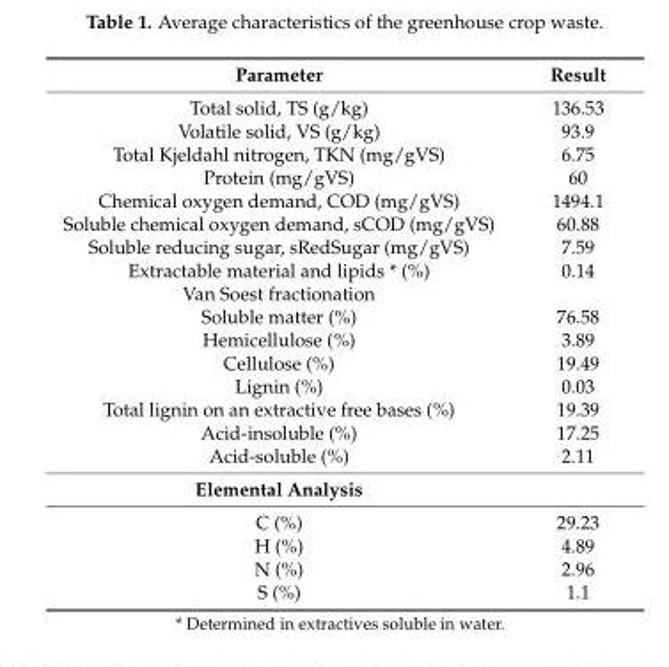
<table><thead><tr><td>Parameter</td><td>Result</td></tr></thead><tbody><tr><td>Total solid, TS (g/kg)</td><td>136.53</td></tr><tr><td>Volatile solid, VS (g/kg)</td><td>93.9</td></tr><tr><td>Total Kjeldahl nitrogen, TKN (mg/gVS)</td><td>6.75</td></tr><tr><td>Protein (mg/gVS)</td><td>60</td></tr><tr><td>Chemical oxygen demand, COD (mg/gVS)</td><td>1494.1</td></tr><tr><td>Soluble chemical oxygen demand, sCOD (mg/gVS)</td><td>60.88</td></tr><tr><td>Soluble reducing sugar, sRedSugar (mg/gVS)</td><td>7.59</td></tr><tr><td>Extractable material and lipids * (%)</td><td>0.14</td></tr><tr><td colspan="2">Van Soest fractionation</td></tr><tr><td>Soluble matter (%)</td><td>76.58</td></tr><tr><td>Hemicellulose (%)</td><td>3.89</td></tr><tr><td>Cellulose (%)</td><td>19.49</td></tr><tr><td>Lignin (%)</td><td>0.03</td></tr><tr><td>Total lignin on an extractive free bases (%)</td><td>19.39</td></tr><tr><td>Acid-insoluble (%)</td><td>17.25</td></tr><tr><td>Acid-soluble (%)</td><td>2.11</td></tr><tr><td colspan="2">Elemental Analysis</td></tr><tr><td>C (%)</td><td>29.23</td></tr><tr><td>H (%)</td><td>4.89</td></tr><tr><td>N (%)</td><td>2.96</td></tr><tr><td>S (%)</td><td>1.1</td></tr></tbody></table>